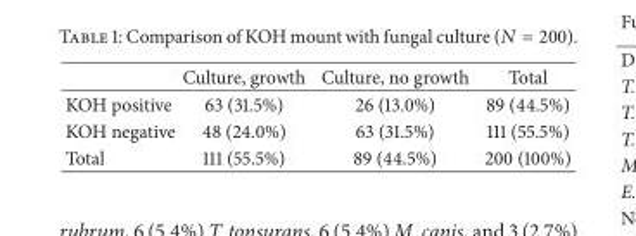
<table><thead><tr><td></td><td>Culture, growth</td><td>Culture, no growth</td><td>Total</td></tr></thead><tbody><tr><td>KOH positive</td><td>63 (31.5%)</td><td>26 (13.0%)</td><td>89 (44.5%)</td></tr><tr><td>KOH negative</td><td>48 (24.0%)</td><td>63 (31.5%)</td><td>111 (55.5%)</td></tr><tr><td>Total</td><td>111 (55.5%)</td><td>89 (44.5%)</td><td>200 (100%)</td></tr></tbody></table>